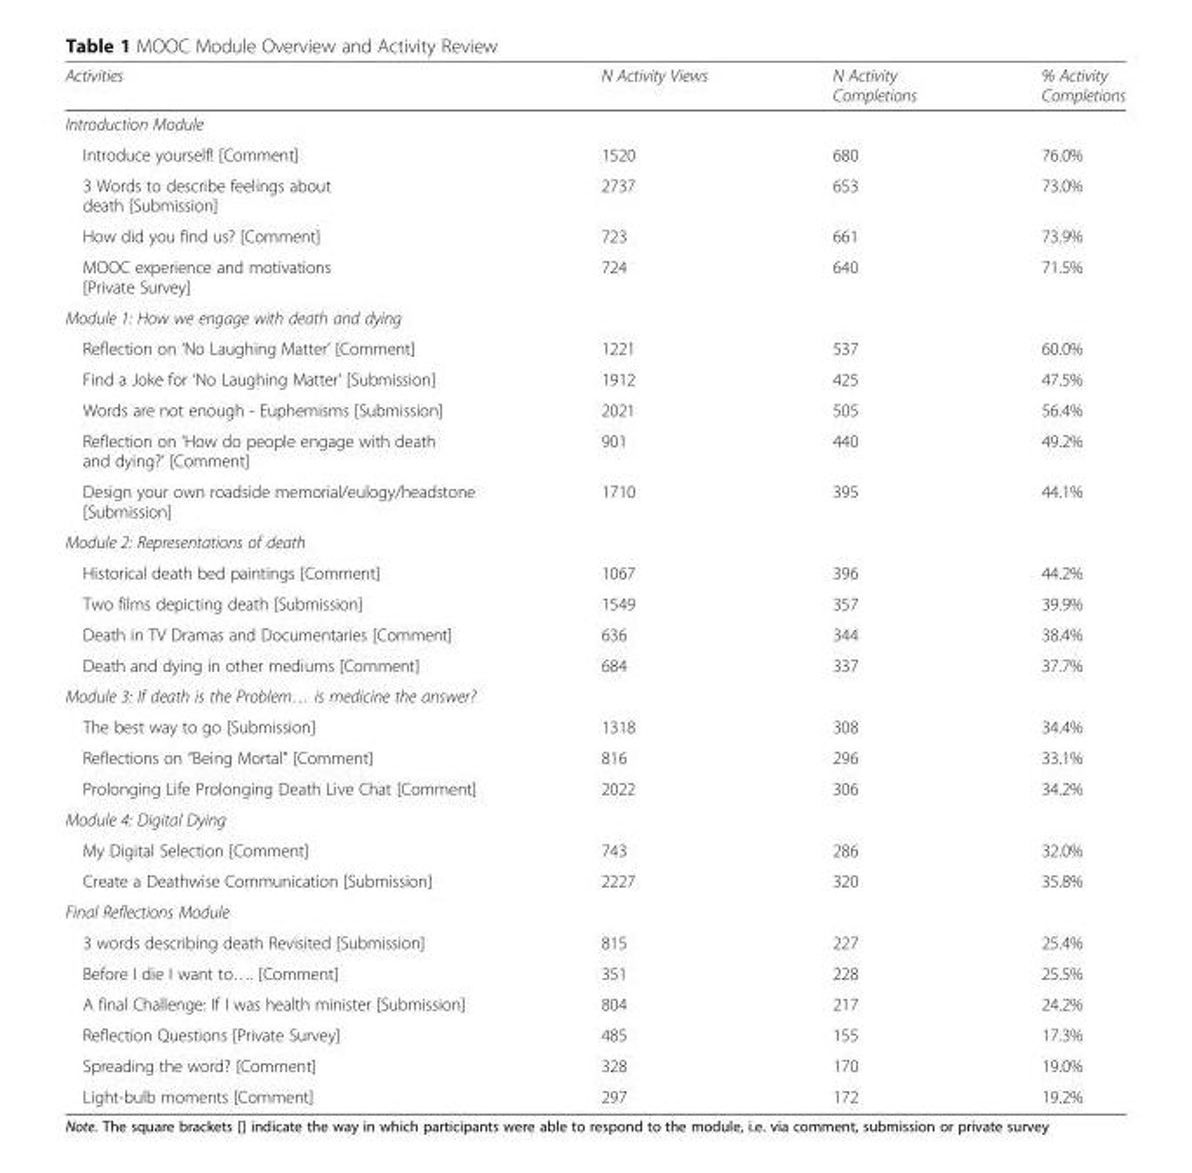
<table><thead><tr><td>Activities</td><td>N Activity Views</td><td>N Activity Completions</td><td>% Activity Completions</td></tr></thead><tbody><tr><td colspan="4">Introduction Module</td></tr><tr><td>Introduce yourself! [Comment]</td><td>1520</td><td>680</td><td>76.0%</td></tr><tr><td>3 Words to describe feelings about death [Submission]</td><td>2737</td><td>653</td><td>73.0%</td></tr><tr><td>How did you find us? [Comment]</td><td>723</td><td>661</td><td>73.9%</td></tr><tr><td>MOOC experience and motivations [Private Survey]</td><td>724</td><td>640</td><td>71.5%</td></tr><tr><td colspan="4">Module 1: How we engage with death and dying</td></tr><tr><td>Reflection on ‘No Laughing Matter’ [Comment]</td><td>1221</td><td>537</td><td>60.0%</td></tr><tr><td>Find a Joke for ‘No Laughing Matter’ [Submission]</td><td>1912</td><td>425</td><td>47.5%</td></tr><tr><td>Words are not enough - Euphemisms [Submission]</td><td>2021</td><td>505</td><td>56.4%</td></tr><tr><td>Reflection on ‘How do people engage with death and dying?’ [Comment]</td><td>901</td><td>440</td><td>49.2%</td></tr><tr><td>Design your own roadside memorial/eulogy/headstone [Submission]</td><td>1710</td><td>395</td><td>44.1%</td></tr><tr><td colspan="4">Module 2: Representations of death</td></tr><tr><td>Historical death bed paintings [Comment]</td><td>1067</td><td>396</td><td>44.2%</td></tr><tr><td>Two films depicting death [Submission]</td><td>1549</td><td>357</td><td>39.9%</td></tr><tr><td>Death in TV Dramas and Documentaries [Comment]</td><td>636</td><td>344</td><td>38.4%</td></tr><tr><td>Death and dying in other mediums [Comment]</td><td>684</td><td>337</td><td>37.7%</td></tr><tr><td colspan="4">Module 3: If death is the Problem… is medicine the answer?</td></tr><tr><td>The best way to go [Submission]</td><td>1318</td><td>308</td><td>34.4%</td></tr><tr><td>Reflections on “Being Mortal” [Comment]</td><td>816</td><td>296</td><td>33.1%</td></tr><tr><td>Prolonging Life Prolonging Death Live Chat [Comment]</td><td>2022</td><td>306</td><td>34.2%</td></tr><tr><td colspan="4">Module 4: Digital Dying</td></tr><tr><td>My Digital Selection [Comment]</td><td>743</td><td>286</td><td>32.0%</td></tr><tr><td>Create a Deathwise Communication [Submission]</td><td>2227</td><td>320</td><td>35.8%</td></tr><tr><td colspan="4">Final Reflections Module</td></tr><tr><td>3 words describing death Revisited [Submission]</td><td>815</td><td>227</td><td>25.4%</td></tr><tr><td>Before I die I want to…. [Comment]</td><td>351</td><td>228</td><td>25.5%</td></tr><tr><td>A final Challenge: If I was health minister [Submission]</td><td>804</td><td>217</td><td>24.2%</td></tr><tr><td>Reflection Questions [Private Survey]</td><td>485</td><td>155</td><td>17.3%</td></tr><tr><td>Spreading the word? [Comment]</td><td>328</td><td>170</td><td>19.0%</td></tr><tr><td>Light-bulb moments [Comment]</td><td>297</td><td>172</td><td>19.2%</td></tr></tbody></table>